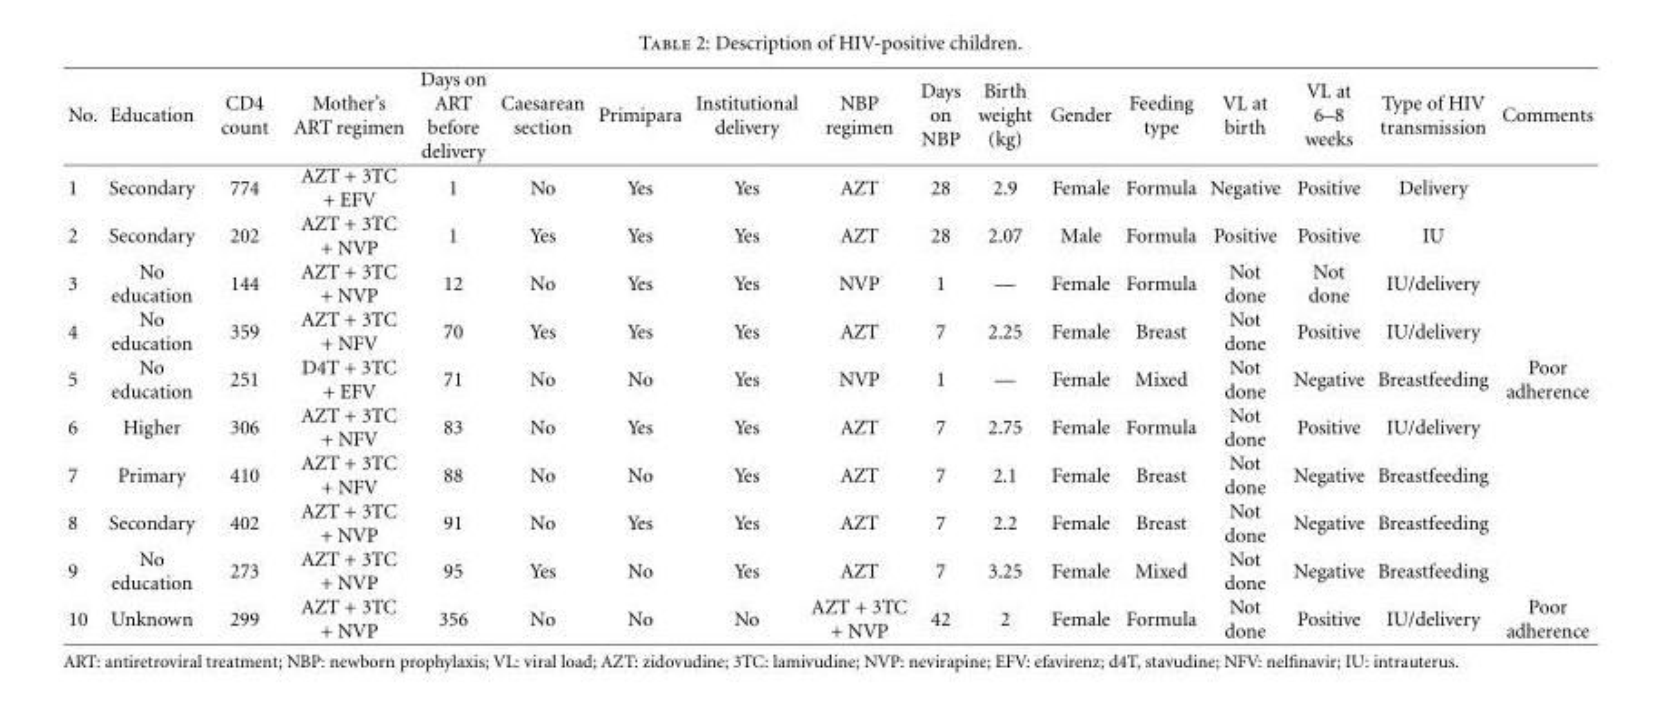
<table><thead><tr><td>No.</td><td>Education</td><td>CD4 count</td><td>Mother’s ART regimen</td><td>Days on ART before delivery</td><td>Caesarean section</td><td>Primipara</td><td>Institutional delivery</td><td>NBP regimen</td><td>Days on NBP</td><td>Birth weight (kg)</td><td>Gender</td><td>Feeding type</td><td>VL at birth</td><td>VL at 6–8 weeks</td><td>Type of HIV transmission</td><td>Comments</td></tr></thead><tbody><tr><td>1</td><td>Secondary</td><td>774</td><td>AZT + 3TC + EFV</td><td>1</td><td>No</td><td>Yes</td><td>Yes</td><td>AZT</td><td>28</td><td>2.9</td><td>Female</td><td>Formula</td><td>Negative</td><td>Positive</td><td>Delivery</td><td></td></tr><tr><td>2</td><td>Secondary</td><td>202</td><td>AZT + 3TC + NVP</td><td>1</td><td>Yes</td><td>Yes</td><td>Yes</td><td>AZT</td><td>28</td><td>2.07</td><td>Male</td><td>Formula</td><td>Positive</td><td>Positive</td><td>IU</td><td></td></tr><tr><td>3</td><td>No education</td><td>144</td><td>AZT + 3TC + NVP</td><td>12</td><td>No</td><td>Yes</td><td>Yes</td><td>NVP</td><td>1</td><td>—</td><td>Female</td><td>Formula</td><td>Not done</td><td>Not done</td><td>IU/delivery</td><td></td></tr><tr><td>4</td><td>No education</td><td>359</td><td>AZT + 3TC + NFV</td><td>70</td><td>Yes</td><td>Yes</td><td>Yes</td><td>AZT</td><td>7</td><td>2.25</td><td>Female</td><td>Breast</td><td>Not done</td><td>Positive</td><td>IU/delivery</td><td></td></tr><tr><td>5</td><td>No education</td><td>251</td><td>D4T + 3TC + EFV</td><td>71</td><td>No</td><td>No</td><td>Yes</td><td>NVP</td><td>1</td><td>—</td><td>Female</td><td>Mixed</td><td>Not done</td><td>Negative</td><td>Breastfeeding</td><td>Poor adherence</td></tr><tr><td>6</td><td>Higher</td><td>306</td><td>AZT + 3TC + NFV</td><td>83</td><td>No</td><td>Yes</td><td>Yes</td><td>AZT</td><td>7</td><td>2.75</td><td>Female</td><td>Formula</td><td>Not done</td><td>Positive</td><td>IU/delivery</td><td></td></tr><tr><td>7</td><td>Primary</td><td>410</td><td>AZT + 3TC + NFV</td><td>88</td><td>No</td><td>No</td><td>Yes</td><td>AZT</td><td>7</td><td>2.1</td><td>Female</td><td>Breast</td><td>Not done</td><td>Negative</td><td>Breastfeeding</td><td></td></tr><tr><td>8</td><td>Secondary</td><td>402</td><td>AZT + 3TC + NVP</td><td>91</td><td>No</td><td>Yes</td><td>Yes</td><td>AZT</td><td>7</td><td>2.2</td><td>Female</td><td>Breast</td><td>Not done</td><td>Negative</td><td>Breastfeeding</td><td></td></tr><tr><td>9</td><td>No education</td><td>273</td><td>AZT + 3TC + NVP</td><td>95</td><td>Yes</td><td>No</td><td>Yes</td><td>AZT</td><td>7</td><td>3.25</td><td>Female</td><td>Mixed</td><td>Not done</td><td>Negative</td><td>Breastfeeding</td><td></td></tr><tr><td>10</td><td>Unknown</td><td>299</td><td>AZT + 3TC + NVP</td><td>356</td><td>No</td><td>No</td><td>No</td><td>AZT + 3TC + NVP</td><td>42</td><td>2</td><td>Female</td><td>Formula</td><td>Not done</td><td>Positive</td><td>IU/delivery</td><td>Poor adherence</td></tr></tbody></table>